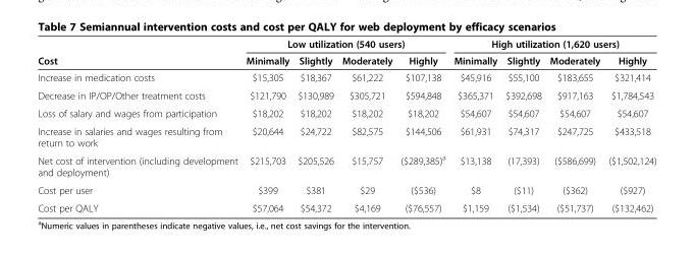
<table><thead><tr><td rowspan="2">Cost</td><td colspan="4">Low utilization (540 users)</td><td colspan="4">High utilization (1,620 users)</td></tr><tr><td>Minimally</td><td>Slightly</td><td>Moderately</td><td>Highly</td><td>Minimally</td><td>Slightly</td><td>Moderately</td><td>Highly</td></tr></thead><tbody><tr><td>Increase in medication costs</td><td>$15,305</td><td>$18,367</td><td>$61,222</td><td>$107,138</td><td>$45,916</td><td>$55,100</td><td>$183,655</td><td>$321,414</td></tr><tr><td>Decrease in IP/OP/Other treatment costs</td><td>$121,790</td><td>$130,989</td><td>$305,721</td><td>$594,848</td><td>$365,371</td><td>$392,698</td><td>$917,163</td><td>$1,784,543</td></tr><tr><td>Loss of salary and wages from participation</td><td>$18,202</td><td>$18,202</td><td>$18,202</td><td>$18,202</td><td>$54,607</td><td>$54,607</td><td>$54,607</td><td>$54,607</td></tr><tr><td>Increase in salaries and wages resulting from return to work</td><td>$20,644</td><td>$24,722</td><td>$82,575</td><td>$144,506</td><td>$61,931</td><td>$74,317</td><td>$247,725</td><td>$433,518</td></tr><tr><td>Net cost of intervention (including development and deployment)</td><td>$215,703</td><td>$205,526</td><td>$15,757</td><td>($289,385)<sup>a</sup></td><td>$13,138</td><td>(17,393)</td><td>($586,699)</td><td>($1,502,124)</td></tr><tr><td>Cost per user</td><td>$399</td><td>$381</td><td>$29</td><td>($536)</td><td>$8</td><td>($11)</td><td>($362)</td><td>($927)</td></tr><tr><td>Cost per QALY</td><td>$57,064</td><td>$54,372</td><td>$4,169</td><td>($76,557)</td><td>$1,159</td><td>($1,534)</td><td>($51,737)</td><td>($132,462)</td></tr></tbody></table>